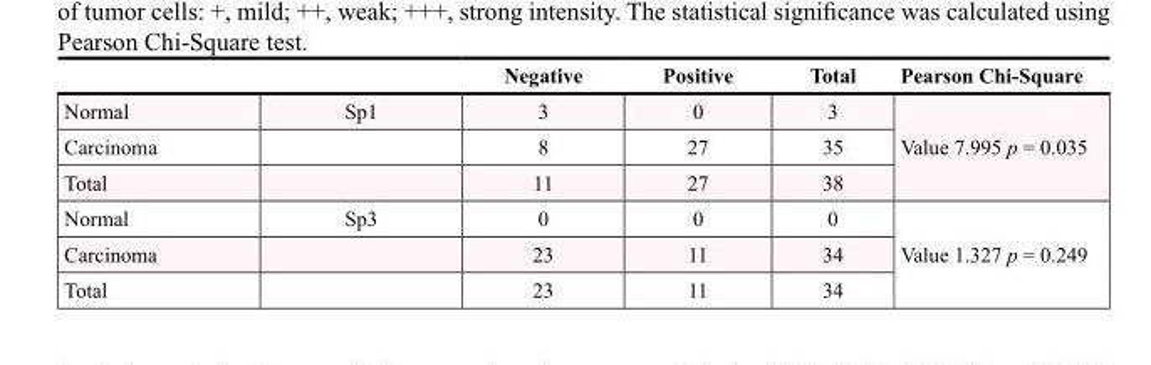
<table><thead><tr><td></td><td></td><td>Negative</td><td>Positive</td><td>Total</td><td>Pearson Chi-Square</td></tr></thead><tbody><tr><td>Normal</td><td>Sp1</td><td>3</td><td>0</td><td>3</td><td rowspan="3">Value 7.995 p = 0.035</td></tr><tr><td>Carcinoma</td><td></td><td>8</td><td>27</td><td>35</td></tr><tr><td>Total</td><td></td><td>11</td><td>27</td><td>38</td></tr><tr><td>Normal</td><td>Sp3</td><td>0</td><td>0</td><td>0</td><td rowspan="3">Value 1.327 p = 0.249</td></tr><tr><td>Carcinoma</td><td></td><td>23</td><td>11</td><td>34</td></tr><tr><td>Total</td><td></td><td>23</td><td>11</td><td>34</td></tr></tbody></table>